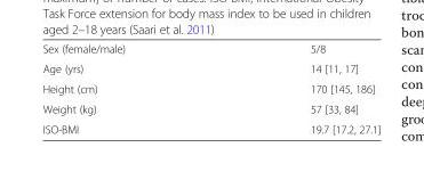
<table><tbody><tr><td>Sex (female/male)</td><td>5/8</td></tr><tr><td>Age (yrs)</td><td>14 [11, 17]</td></tr><tr><td>Height (cm)</td><td>170 [145, 186]</td></tr><tr><td>Weight (kg)</td><td>57 [33, 84]</td></tr><tr><td>ISO-BMI</td><td>19.7 [17.2, 27.1]</td></tr></tbody></table>